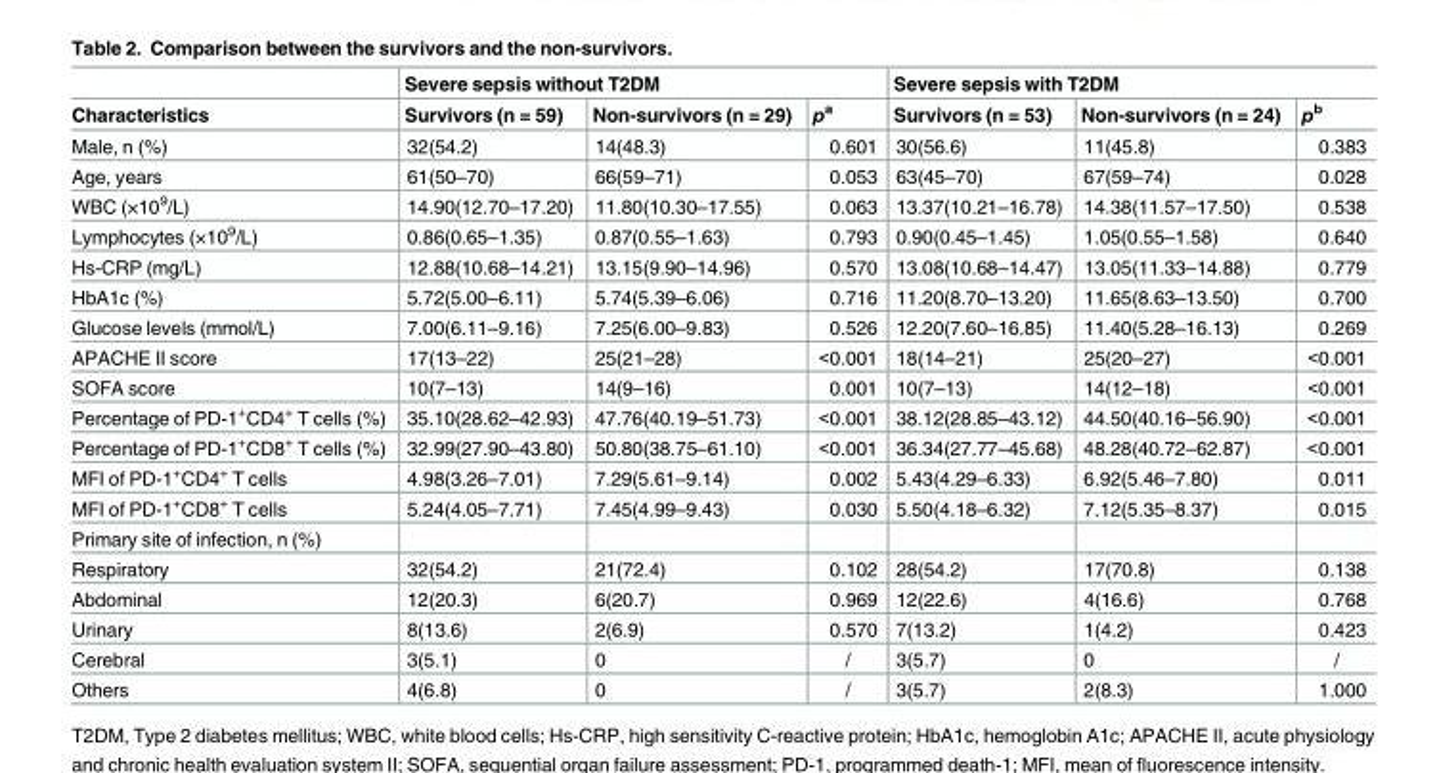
<table><thead><tr><td rowspan="2">Characteristics</td><td colspan="3">Severe sepsis without T2DM</td><td colspan="3">Severe sepsis with T2DM</td></tr><tr><td>Survivors (n = 59)</td><td>Non-survivors (n = 29)</td><td>p<sup>a</sup></td><td>Survivors (n = 53)</td><td>Non-survivors (n = 24)</td><td>p<sup>b</sup></td></tr></thead><tbody><tr><td>Male, n (%)</td><td>32(54.2)</td><td>14(48.3)</td><td>0.601</td><td>30(56.6)</td><td>11(45.8)</td><td>0.383</td></tr><tr><td>Age, years</td><td>61(50–70)</td><td>66(59–71)</td><td>0.053</td><td>63(45–70)</td><td>67(59–74)</td><td>0.028</td></tr><tr><td>WBC (×10<sup>9</sup>/L)</td><td>14.90(12.70–17.20)</td><td>11.80(10.30–17.55)</td><td>0.063</td><td>13.37(10.21–16.78)</td><td>14.38(11.57–17.50)</td><td>0.538</td></tr><tr><td>Lymphocytes (×10<sup>9</sup>/L)</td><td>0.86(0.65–1.35)</td><td>0.87(0.55–1.63)</td><td>0.793</td><td>0.90(0.45–1.45)</td><td>1.05(0.55–1.58)</td><td>0.640</td></tr><tr><td>Hs-CRP (mg/L)</td><td>12.88(10.68–14.21)</td><td>13.15(9.90–14.96)</td><td>0.570</td><td>13.08(10.68–14.47)</td><td>13.05(11.33–14.88)</td><td>0.779</td></tr><tr><td>HbA1c (%)</td><td>5.72(5.00–6.11)</td><td>5.74(5.39–6.06)</td><td>0.716</td><td>11.20(8.70–13.20)</td><td>11.65(8.63–13.50)</td><td>0.700</td></tr><tr><td>Glucose levels (mmol/L)</td><td>7.00(6.11–9.16)</td><td>7.25(6.00–9.83)</td><td>0.526</td><td>12.20(7.60–16.85)</td><td>11.40(5.28–16.13)</td><td>0.269</td></tr><tr><td>APACHE II score</td><td>17(13–22)</td><td>25(21–28)</td><td>&lt;0.001</td><td>18(14–21)</td><td>25(20–27)</td><td>&lt;0.001</td></tr><tr><td>SOFA score</td><td>10(7–13)</td><td>14(9–16)</td><td>0.001</td><td>10(7–13)</td><td>14(12–18)</td><td>&lt;0.001</td></tr><tr><td>Percentage of PD-1<sup>+</sup>CD4<sup>+</sup> T cells (%)</td><td>35.10(28.62–42.93)</td><td>47.76(40.19–51.73)</td><td>&lt;0.001</td><td>38.12(28.85–43.12)</td><td>44.50(40.16–56.90)</td><td>&lt;0.001</td></tr><tr><td>Percentage of PD-1<sup>+</sup>CD8<sup>+</sup> T cells (%)</td><td>32.99(27.90–43.80)</td><td>50.80(38.75–61.10)</td><td>&lt;0.001</td><td>36.34(27.77–45.68)</td><td>48.28(40.72–62.87)</td><td>&lt;0.001</td></tr><tr><td>MFI of PD-1<sup>+</sup>CD4<sup>+</sup> T cells</td><td>4.98(3.26–7.01)</td><td>7.29(5.61–9.14)</td><td>0.002</td><td>5.43(4.29–6.33)</td><td>6.92(5.46–7.80)</td><td>0.011</td></tr><tr><td>MFI of PD-1<sup>+</sup>CD8<sup>+</sup> T cells</td><td>5.24(4.05–7.71)</td><td>7.45(4.99–9.43)</td><td>0.030</td><td>5.50(4.18–6.32)</td><td>7.12(5.35–8.37)</td><td>0.015</td></tr><tr><td colspan="7">Primary site of infection, n (%)</td></tr><tr><td>Respiratory</td><td>32(54.2)</td><td>21(72.4)</td><td>0.102</td><td>28(54.2)</td><td>17(70.8)</td><td>0.138</td></tr><tr><td>Abdominal</td><td>12(20.3)</td><td>6(20.7)</td><td>0.969</td><td>12(22.6)</td><td>4(16.6)</td><td>0.768</td></tr><tr><td>Urinary</td><td>8(13.6)</td><td>2(6.9)</td><td>0.570</td><td>7(13.2)</td><td>1(4.2)</td><td>0.423</td></tr><tr><td>Cerebral</td><td>3(5.1)</td><td>0</td><td>/</td><td>3(5.7)</td><td>0</td><td>/</td></tr><tr><td>Others</td><td>4(6.8)</td><td>0</td><td>/</td><td>3(5.7)</td><td>2(8.3)</td><td>1.000</td></tr></tbody></table>